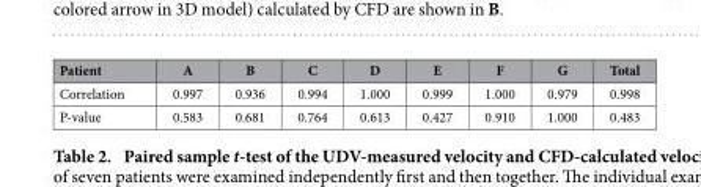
<table><thead><tr><td>Patient</td><td>A</td><td>B</td><td>C</td><td>D</td><td>E</td><td>F</td><td>G</td><td>Total</td></tr></thead><tbody><tr><td>Correlation</td><td>0.997</td><td>0.936</td><td>0.994</td><td>1.000</td><td>0.999</td><td>1.000</td><td>0.979</td><td>0.998</td></tr><tr><td>P-value</td><td>0.583</td><td>0.681</td><td>0.764</td><td>0.613</td><td>0.427</td><td>0.910</td><td>1.000</td><td>0.483</td></tr></tbody></table>